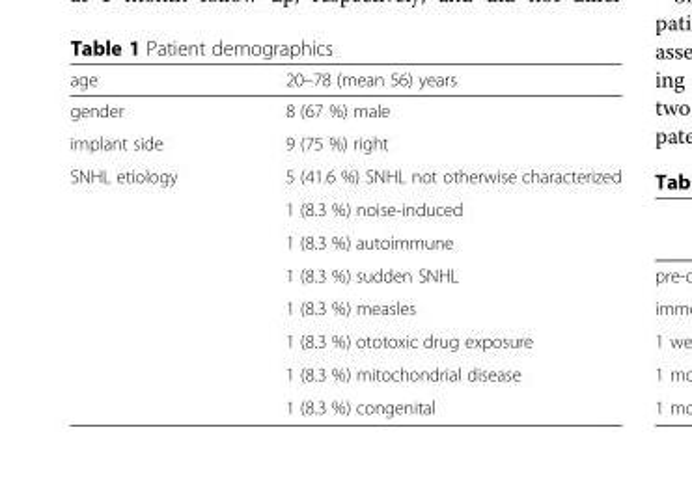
<table><thead><tr><td>age</td><td>20–78 (mean 56) years</td></tr></thead><tbody><tr><td>gender</td><td>8 (67 %) male</td></tr><tr><td>implant side</td><td>9 (75 %) right</td></tr><tr><td rowspan="8">SNHL etiology</td><td>5 (41.6 %) SNHL not otherwise characterized</td></tr><tr><td>1 (8.3 %) noise-induced</td></tr><tr><td>1 (8.3 %) autoimmune</td></tr><tr><td>1 (8.3 %) sudden SNHL</td></tr><tr><td>1 (8.3 %) measles</td></tr><tr><td>1 (8.3 %) ototoxic drug exposure</td></tr><tr><td>1 (8.3 %) mitochondrial disease</td></tr><tr><td>1 (8.3 %) congenital</td></tr></tbody></table>